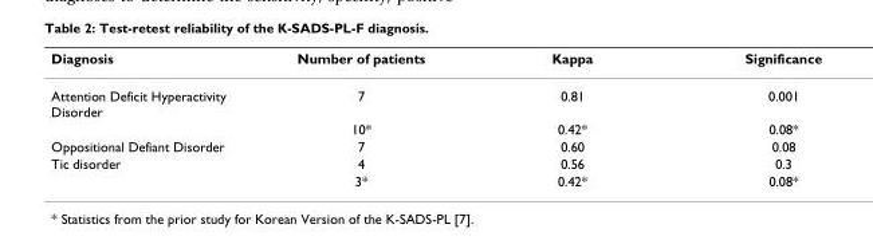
<table><thead><tr><td>Diagnosis</td><td>Number of patients</td><td>Kappa</td><td>Significance</td></tr></thead><tbody><tr><td rowspan="2">Attention Deficit Hyperactivity Disorder</td><td>7</td><td>0.81</td><td>0.001</td></tr><tr><td>10*</td><td>0.42*</td><td>0.08*</td></tr><tr><td>Oppositional Defiant Disorder</td><td>7</td><td>0.60</td><td>0.08</td></tr><tr><td rowspan="2">Tic disorder</td><td>4</td><td>0.56</td><td>0.3</td></tr><tr><td>3*</td><td>0.42*</td><td>0.08*</td></tr></tbody></table>